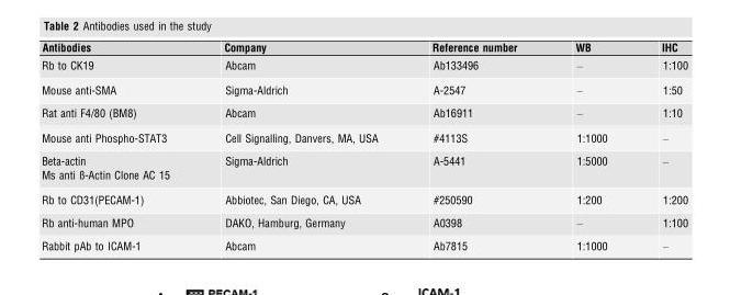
<table><thead><tr><td>Antibodies</td><td>Company</td><td>Reference number</td><td>WB</td><td>IHC</td></tr></thead><tbody><tr><td>Rb to CK19</td><td>Abcam</td><td>Ab133496</td><td>–</td><td>1:100</td></tr><tr><td>Mouse anti-SMA</td><td>Sigma-Aldrich</td><td>A-2547</td><td>–</td><td>1:50</td></tr><tr><td>Rat anti F4/80 (BM8)</td><td>Abcam</td><td>Ab16911</td><td>–</td><td>1:10</td></tr><tr><td>Mouse anti Phospho-STAT3</td><td>Cell Signalling, Danvers, MA, USA</td><td>#4113S</td><td>1:1000</td><td>–</td></tr><tr><td>Beta-actin Ms anti ß-Actin Clone AC 15</td><td>Sigma-Aldrich</td><td>A-5441</td><td>1:5000</td><td>–</td></tr><tr><td>Rb to CD31(PECAM-1)</td><td>Abbiotec, San Diego, CA, USA</td><td>#250590</td><td>1:200</td><td>1:200</td></tr><tr><td>Rb anti-human MPO</td><td>DAKO, Hamburg, Germany</td><td>A0398</td><td>–</td><td>1:100</td></tr><tr><td>Rabbit pAb to ICAM-1</td><td>Abcam</td><td>Ab7815</td><td>1:1000</td><td>–</td></tr></tbody></table>